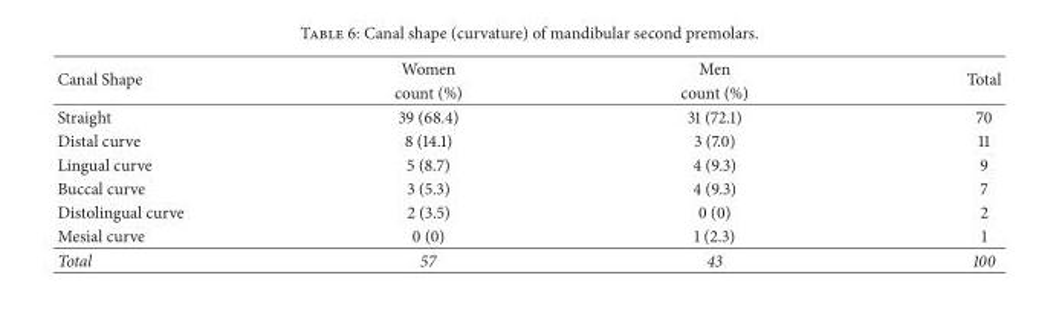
<table><thead><tr><td rowspan="2">Canal Shape</td><td rowspan="2">Women count (%)</td><td rowspan="2">Men count (%)</td><td rowspan="2">Total</td></tr><tr></tr></thead><tbody><tr><td>Straight</td><td>39 (68.4)</td><td>31 (72.1)</td><td>70</td></tr><tr><td>Distal curve</td><td>8 (14.1)</td><td>3 (7.0)</td><td>11</td></tr><tr><td>Lingual curve</td><td>5 (8.7)</td><td>4 (9.3)</td><td>9</td></tr><tr><td>Buccal curve</td><td>3 (5.3)</td><td>4 (9.3)</td><td>7</td></tr><tr><td>Distolingual curve</td><td>2 (3.5)</td><td>0 (0)</td><td>2</td></tr><tr><td>Mesial curve</td><td>0 (0)</td><td>1 (2.3)</td><td>1</td></tr><tr><td>Total</td><td>57</td><td>43</td><td>100</td></tr></tbody></table>